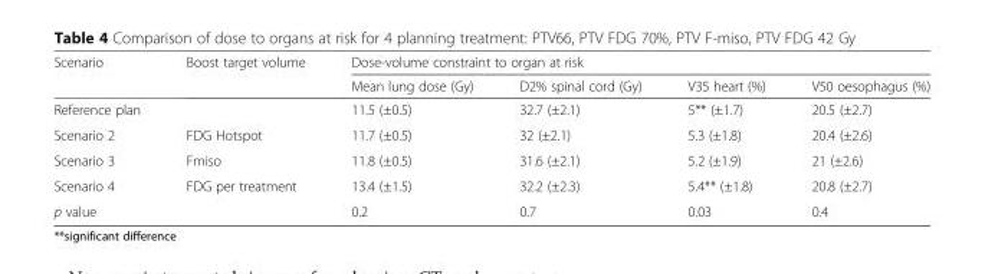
<table><thead><tr><td rowspan="2">Scenario</td><td rowspan="2">Boost target volume</td><td colspan="4">Dose-volume constraint to organ at risk</td></tr><tr><td>Mean lung dose (Gy)</td><td>D2% spinal cord (Gy)</td><td>V35 heart (%)</td><td>V50 oesophagus (%)</td></tr></thead><tbody><tr><td>Reference plan</td><td></td><td>11.5 (±0.5)</td><td>32.7 (±2.1)</td><td>5** (±1.7)</td><td>20.5 (±2.7)</td></tr><tr><td>Scenario 2</td><td>FDG Hotspot</td><td>11.7 (±0.5)</td><td>32 (±2.1)</td><td>5.3 (±1.8)</td><td>20.4 (±2.6)</td></tr><tr><td>Scenario 3</td><td>Fmiso</td><td>11.8 (±0.5)</td><td>31.6 (±2.1)</td><td>5.2 (±1.9)</td><td>21 (±2.6)</td></tr><tr><td>Scenario 4</td><td>FDG per treatment</td><td>13.4 (±1.5)</td><td>32.2 (±2.3)</td><td>5.4** (±1.8)</td><td>20.8 (±2.7)</td></tr><tr><td>p value</td><td></td><td>0.2</td><td>0.7</td><td>0.03</td><td>0.4</td></tr></tbody></table>